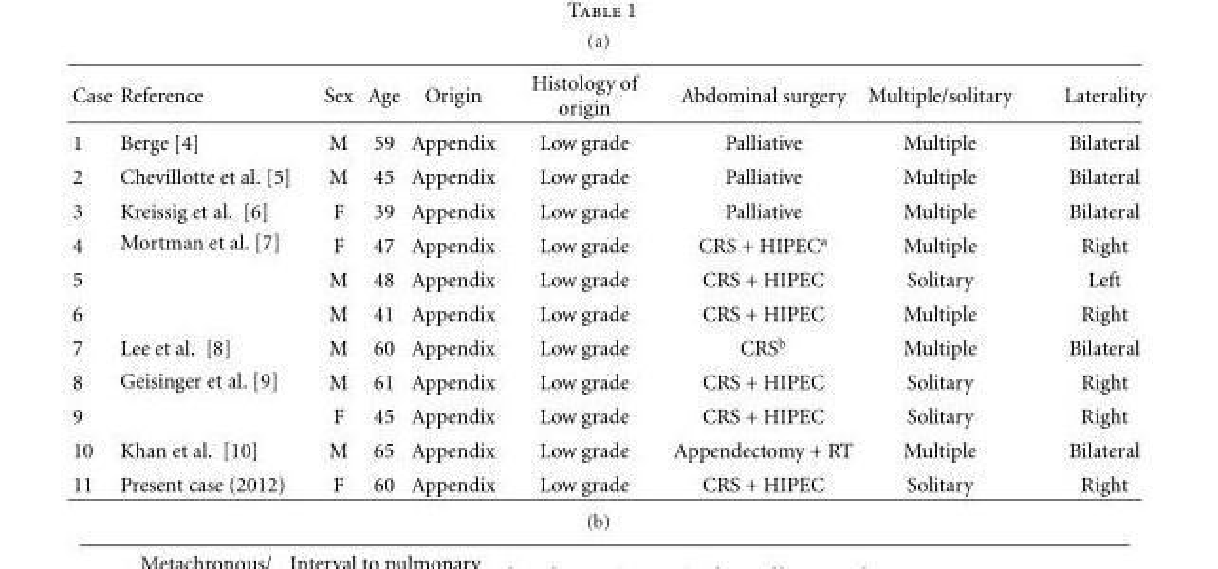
<table><thead><tr><td>Case</td><td>Reference</td><td>Sex</td><td>Age</td><td>Origin</td><td>Histology of origin</td><td>Abdominal surgery</td><td>Multiple/solitary</td><td>Laterality</td></tr></thead><tbody><tr><td>1</td><td>Berge [4]</td><td>M</td><td>59</td><td>Appendix</td><td>Low grade</td><td>Palliative</td><td>Multiple</td><td>Bilateral</td></tr><tr><td>2</td><td>Chevillotte et al. [5]</td><td>M</td><td>45</td><td>Appendix</td><td>Low grade</td><td>Palliative</td><td>Multiple</td><td>Bilateral</td></tr><tr><td>3</td><td>Kreissig et al. [6]</td><td>F</td><td>39</td><td>Appendix</td><td>Low grade</td><td>Palliative</td><td>Multiple</td><td>Bilateral</td></tr><tr><td>4</td><td rowspan="3">Mortman et al. [7]</td><td>F</td><td>47</td><td>Appendix</td><td>Low grade</td><td>CRS + HIPEC<sup>a</sup></td><td>Multiple</td><td>Right</td></tr><tr><td>5</td><td>M</td><td>48</td><td>Appendix</td><td>Low grade</td><td>CRS + HIPEC</td><td>Solitary</td><td>Left</td></tr><tr><td>6</td><td>M</td><td>41</td><td>Appendix</td><td>Low grade</td><td>CRS + HIPEC</td><td>Multiple</td><td>Right</td></tr><tr><td>7</td><td>Lee et al. [8]</td><td>M</td><td>60</td><td>Appendix</td><td>Low grade</td><td>CRS<sup>b</sup></td><td>Multiple</td><td>Bilateral</td></tr><tr><td>8</td><td rowspan="2">Geisinger et al. [9]</td><td>M</td><td>61</td><td>Appendix</td><td>Low grade</td><td>CRS + HIPEC</td><td>Solitary</td><td>Right</td></tr><tr><td>9</td><td>F</td><td>45</td><td>Appendix</td><td>Low grade</td><td>CRS + HIPEC</td><td>Solitary</td><td>Right</td></tr><tr><td>10</td><td>Khan et al. [10]</td><td>M</td><td>65</td><td>Appendix</td><td>Low grade</td><td>Appendectomy + RT</td><td>Multiple</td><td>Bilateral</td></tr><tr><td>11</td><td>Present case (2012)</td><td>F</td><td>60</td><td>Appendix</td><td>Low grade</td><td>CRS + HIPEC</td><td>Solitary</td><td>Right</td></tr></tbody></table>